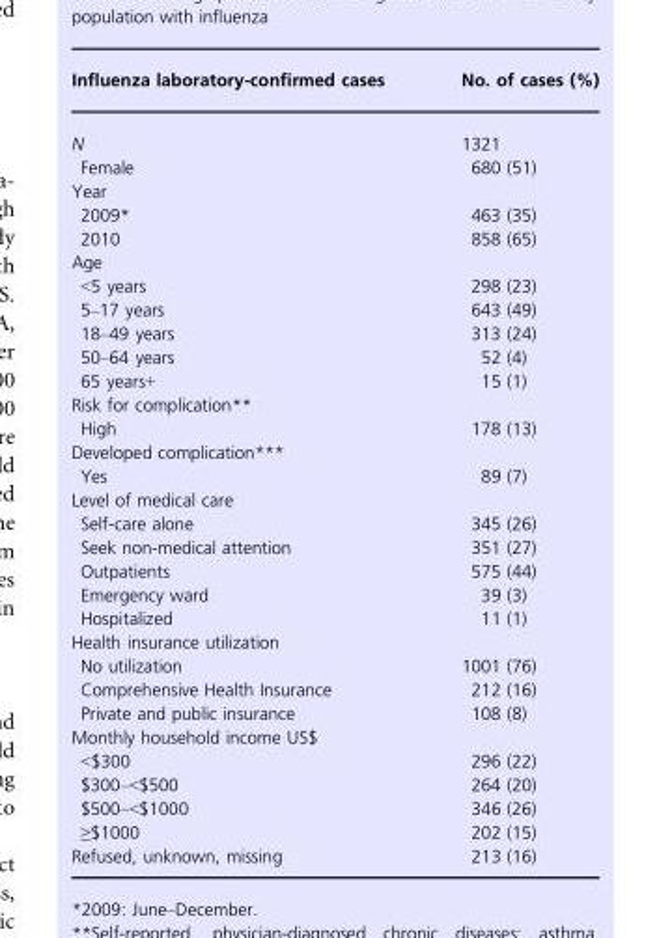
<table><thead><tr><td>Influenza laboratory-confirmed cases</td><td>No. of cases (%)</td></tr></thead><tbody><tr><td>N</td><td>1321</td></tr><tr><td>Female</td><td>680 (51)</td></tr><tr><td colspan="2">Year</td></tr><tr><td>2009*</td><td>463 (35)</td></tr><tr><td>2010</td><td>858 (65)</td></tr><tr><td colspan="2">Age</td></tr><tr><td>&lt;5 years</td><td>298 (23)</td></tr><tr><td>5–17 years</td><td>643 (49)</td></tr><tr><td>18–49 years</td><td>313 (24)</td></tr><tr><td>50–64 years</td><td>52 (4)</td></tr><tr><td>65 years+</td><td>15 (1)</td></tr><tr><td colspan="2">Risk for complication**</td></tr><tr><td>High</td><td>178 (13)</td></tr><tr><td colspan="2">Developed complication***</td></tr><tr><td>Yes</td><td>89 (7)</td></tr><tr><td colspan="2">Level of medical care</td></tr><tr><td>Self-care alone</td><td>345 (26)</td></tr><tr><td>Seek non-medical attention</td><td>351 (27)</td></tr><tr><td>Outpatients</td><td>575 (44)</td></tr><tr><td>Emergency ward</td><td>39 (3)</td></tr><tr><td>Hospitalized</td><td>11 (1)</td></tr><tr><td colspan="2">Health insurance utilization</td></tr><tr><td>No utilization</td><td>1001 (76)</td></tr><tr><td>Comprehensive Health Insurance</td><td>212 (16)</td></tr><tr><td>Private and public insurance</td><td>108 (8)</td></tr><tr><td colspan="2">Monthly household income US$</td></tr><tr><td>&lt;$300</td><td>296 (22)</td></tr><tr><td>$300–&lt;$500</td><td>264 (20)</td></tr><tr><td>$500–&lt;$1000</td><td>346 (26)</td></tr><tr><td>≥$1000</td><td>202 (15)</td></tr><tr><td>Refused, unknown, missing</td><td>213 (16)</td></tr></tbody></table>